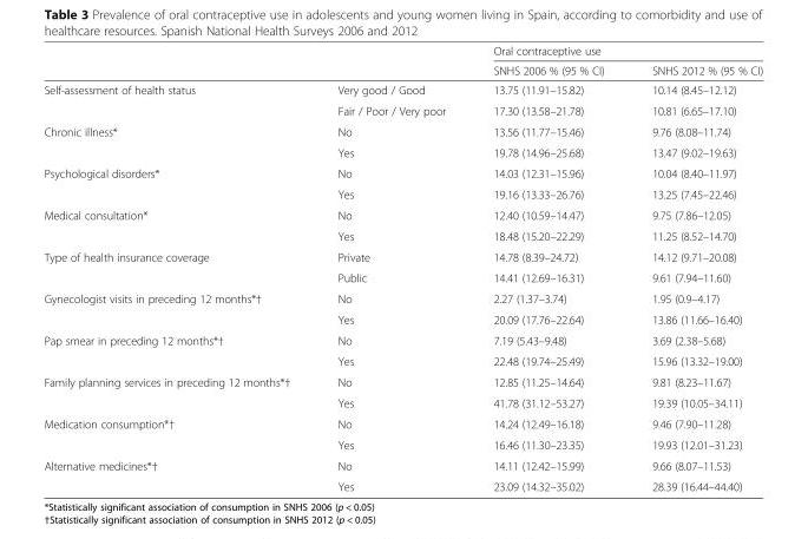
<table><thead><tr><td rowspan="2"></td><td rowspan="2"></td><td colspan="2">Oral contraceptive use</td></tr><tr><td>SNHS 2006 % (95 % CI)</td><td>SNHS 2012 % (95 % CI)</td></tr></thead><tbody><tr><td rowspan="2">Self-assessment of health status</td><td>Very good / Good</td><td>13.75 (11.91–15.82)</td><td>10.14 (8.45–12.12)</td></tr><tr><td>Fair / Poor / Very poor</td><td>17.30 (13.58–21.78)</td><td>10.81 (6.65–17.10)</td></tr><tr><td rowspan="2">Chronic illness*</td><td>No</td><td>13.56 (11.77–15.46)</td><td>9.76 (8.08–11.74)</td></tr><tr><td>Yes</td><td>19.78 (14.96–25.68)</td><td>13.47 (9.02–19.63)</td></tr><tr><td rowspan="2">Psychological disorders*</td><td>No</td><td>14.03 (12.31–15.96)</td><td>10.04 (8.40–11.97)</td></tr><tr><td>Yes</td><td>19.16 (13.33–26.76)</td><td>13.25 (7.45–22.46)</td></tr><tr><td rowspan="2">Medical consultation*</td><td>No</td><td>12.40 (10.59–14.47)</td><td>9.75 (7.86–12.05)</td></tr><tr><td>Yes</td><td>18.48 (15.20–22.29)</td><td>11.25 (8.52–14.70)</td></tr><tr><td rowspan="2">Type of health insurance coverage</td><td>Private</td><td>14.78 (8.39–24.72)</td><td>14.12 (9.71–20.08)</td></tr><tr><td>Public</td><td>14.41 (12.69–16.31)</td><td>9.61 (7.94–11.60)</td></tr><tr><td rowspan="2">Gynecologist visits in preceding 12 months*†</td><td>No</td><td>2.27 (1.37–3.74)</td><td>1.95 (0.9–4.17)</td></tr><tr><td>Yes</td><td>20.09 (17.76–22.64)</td><td>13.86 (11.66–16.40)</td></tr><tr><td rowspan="2">Pap smear in preceding 12 months*†</td><td>No</td><td>7.19 (5.43–9.48)</td><td>3.69 (2.38–5.68)</td></tr><tr><td>Yes</td><td>22.48 (19.74–25.49)</td><td>15.96 (13.32–19.00)</td></tr><tr><td rowspan="2">Family planning services in preceding 12 months*†</td><td>No</td><td>12.85 (11.25–14.64)</td><td>9.81 (8.23–11.67)</td></tr><tr><td>Yes</td><td>41.78 (31.12–53.27)</td><td>19.39 (10.05–34.11)</td></tr><tr><td rowspan="2">Medication consumption*†</td><td>No</td><td>14.24 (12.49–16.18)</td><td>9.46 (7.90–11.28)</td></tr><tr><td>Yes</td><td>16.46 (11.30–23.35)</td><td>19.93 (12.01–31.23)</td></tr><tr><td rowspan="2">Alternative medicines*†</td><td>No</td><td>14.11 (12.42–15.99)</td><td>9.66 (8.07–11.53)</td></tr><tr><td>Yes</td><td>23.09 (14.32–35.02)</td><td>28.39 (16.44–44.40)</td></tr></tbody></table>